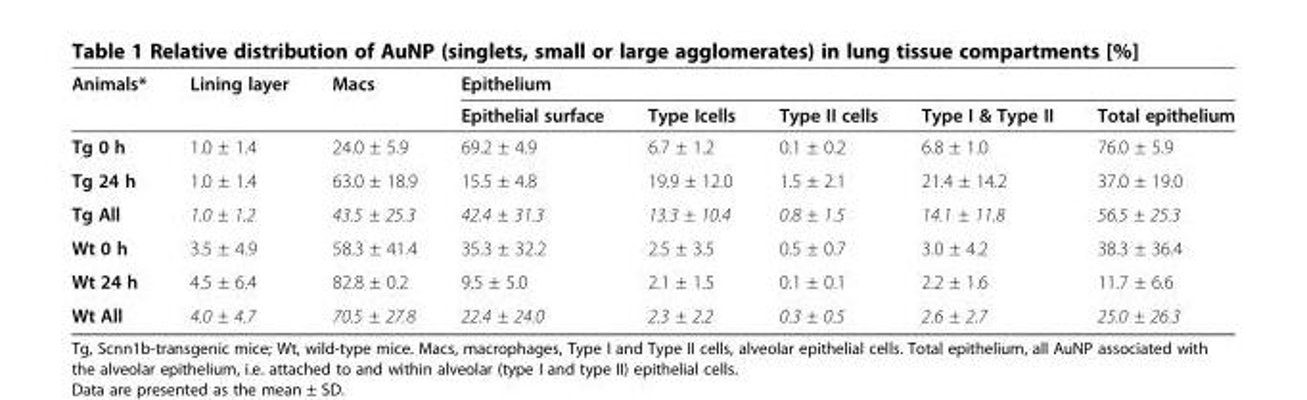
<table><thead><tr><td rowspan="2">Animals*</td><td>Lining layer</td><td>Macs</td><td colspan="5">Epithelium</td></tr><tr><td colspan="2"></td><td>Epithelial surface</td><td>Type Icells</td><td>Type II cells</td><td>Type I &amp; Type II</td><td>Total epithelium</td></tr></thead><tbody><tr><td>Tg 0 h</td><td>1.0 ± 1.4</td><td>24.0 ± 5.9</td><td>69.2 ± 4.9</td><td>6.7 ± 1.2</td><td>0.1 ± 0.2</td><td>6.8 ± 1.0</td><td>76.0 ± 5.9</td></tr><tr><td>Tg 24 h</td><td>1.0 ± 1.4</td><td>63.0 ± 18.9</td><td>15.5 ± 4.8</td><td>19.9 ± 12.0</td><td>1.5 ± 2.1</td><td>21.4 ± 14.2</td><td>37.0 ± 19.0</td></tr><tr><td>Tg All</td><td>1.0 ± 1.2</td><td>43.5 ± 25.3</td><td>42.4 ± 31.3</td><td>13.3 ± 10.4</td><td>0.8 ± 1.5</td><td>14.1 ± 11.8</td><td>56.5 ± 25.3</td></tr><tr><td>Wt 0 h</td><td>3.5 ± 4.9</td><td>58.3 ± 41.4</td><td>35.3 ± 32.2</td><td>2.5 ± 3.5</td><td>0.5 ± 0.7</td><td>3.0 ± 4.2</td><td>38.3 ± 36.4</td></tr><tr><td>Wt 24 h</td><td>4.5 ± 6.4</td><td>82.8 ± 0.2</td><td>9.5 ± 5.0</td><td>2.1 ± 1.5</td><td>0.1 ± 0.1</td><td>2.2 ± 1.6</td><td>11.7 ± 6.6</td></tr><tr><td>Wt All</td><td>4.0 ± 4.7</td><td>70.5 ± 27.8</td><td>22.4 ± 24.0</td><td>2.3 ± 2.2</td><td>0.3 ± 0.5</td><td>2.6 ± 2.7</td><td>25.0 ± 26.3</td></tr></tbody></table>